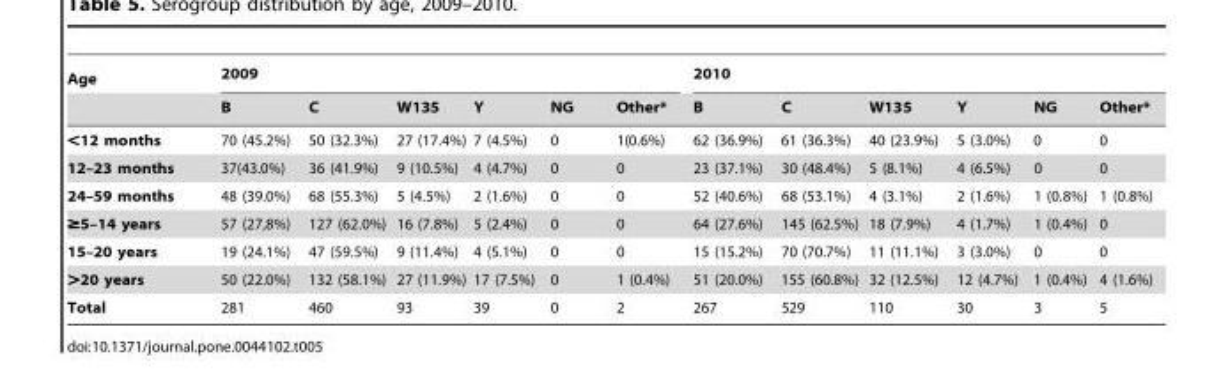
<table><thead><tr><td rowspan="2">Age</td><td colspan="6">2009</td><td colspan="6">2010</td></tr><tr><td>B</td><td>C</td><td>W135</td><td>Y</td><td>NG</td><td>Other*</td><td>B</td><td>C</td><td>W135</td><td>Y</td><td>NG</td><td>Other*</td></tr></thead><tbody><tr><td>&lt;12 months</td><td>70 (45.2%)</td><td>50 (32.3%)</td><td>27 (17.4%)</td><td>7 (4.5%)</td><td>0</td><td>1(0.6%)</td><td>62 (36.9%)</td><td>61 (36.3%)</td><td>40 (23.9%)</td><td>5 (3.0%)</td><td>0</td><td>0</td></tr><tr><td>12–23 months</td><td>37(43.0%)</td><td>36 (41.9%)</td><td>9 (10.5%)</td><td>4 (4.7%)</td><td>0</td><td>0</td><td>23 (37.1%)</td><td>30 (48.4%)</td><td>5 (8.1%)</td><td>4 (6.5%)</td><td>0</td><td>0</td></tr><tr><td>24–59 months</td><td>48 (39.0%)</td><td>68 (55.3%)</td><td>5 (4.5%)</td><td>2 (1.6%)</td><td>0</td><td>0</td><td>52 (40.6%)</td><td>68 (53.1%)</td><td>4 (3.1%)</td><td>2 (1.6%)</td><td>1 (0.8%)</td><td>1 (0.8%)</td></tr><tr><td>≥5–14 years</td><td>57 (27,8%)</td><td>127 (62.0%)</td><td>16 (7.8%)</td><td>5 (2.4%)</td><td>0</td><td>0</td><td>64 (27.6%)</td><td>145 (62.5%)</td><td>18 (7.9%)</td><td>4 (1.7%)</td><td>1 (0.4%)</td><td>0</td></tr><tr><td>15–20 years</td><td>19 (24.1%)</td><td>47 (59.5%)</td><td>9 (11.4%)</td><td>4 (5.1%)</td><td>0</td><td>0</td><td>15 (15.2%)</td><td>70 (70.7%)</td><td>11 (11.1%)</td><td>3 (3.0%)</td><td>0</td><td>0</td></tr><tr><td>&gt;20 years</td><td>50 (22.0%)</td><td>132 (58.1%)</td><td>27 (11.9%)</td><td>17 (7.5%)</td><td>0</td><td>1 (0.4%)</td><td>51 (20.0%)</td><td>155 (60.8%)</td><td>32 (12.5%)</td><td>12 (4.7%)</td><td>1 (0.4%)</td><td>4 (1.6%)</td></tr><tr><td>Total</td><td>281</td><td>460</td><td>93</td><td>39</td><td>0</td><td>2</td><td>267</td><td>529</td><td>110</td><td>30</td><td>3</td><td>5</td></tr></tbody></table>